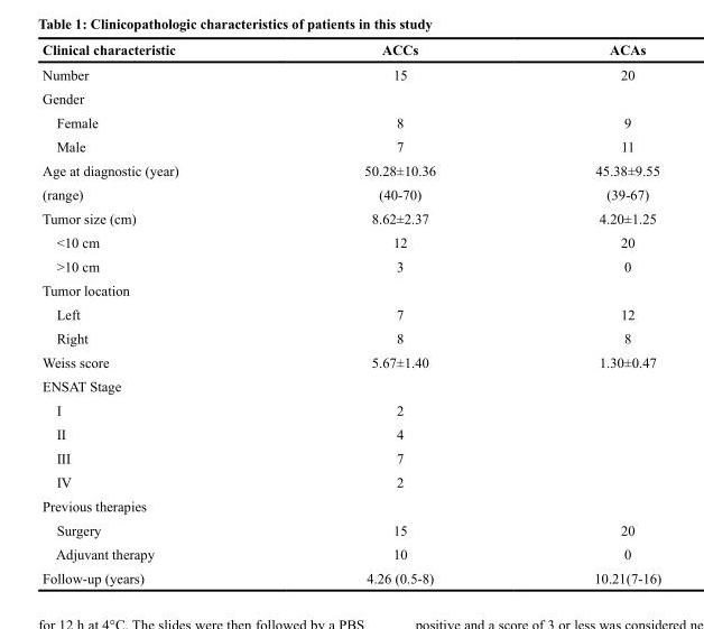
<table><thead><tr><td>Clinical characteristic</td><td>ACCs</td><td>ACAs</td></tr></thead><tbody><tr><td>Number</td><td>15</td><td>20</td></tr><tr><td colspan="3">Gender</td></tr><tr><td>Female</td><td>8</td><td>9</td></tr><tr><td>Male</td><td>7</td><td>11</td></tr><tr><td>Age at diagnostic (year)</td><td>50.28±10.36</td><td>45.38±9.55</td></tr><tr><td>(range)</td><td>(40-70)</td><td>(39-67)</td></tr><tr><td>Tumor size (cm)</td><td>8.62±2.37</td><td>4.20±1.25</td></tr><tr><td>&lt;10 cm</td><td>12</td><td>20</td></tr><tr><td>&gt;10 cm</td><td>3</td><td>0</td></tr><tr><td colspan="3">Tumor location</td></tr><tr><td>Left</td><td>7</td><td>12</td></tr><tr><td>Right</td><td>8</td><td>8</td></tr><tr><td>Weiss score</td><td>5.67±1.40</td><td>1.30±0.47</td></tr><tr><td colspan="3">ENSAT Stage</td></tr><tr><td>I</td><td>2</td><td></td></tr><tr><td>II</td><td>4</td><td></td></tr><tr><td>III</td><td>7</td><td></td></tr><tr><td>IV</td><td>2</td><td></td></tr><tr><td colspan="3">Previous therapies</td></tr><tr><td>Surgery</td><td>15</td><td>20</td></tr><tr><td>Adjuvant therapy</td><td>10</td><td>0</td></tr><tr><td>Follow-up (years)</td><td>4.26 (0.5-8)</td><td>10.21(7-16)</td></tr></tbody></table>